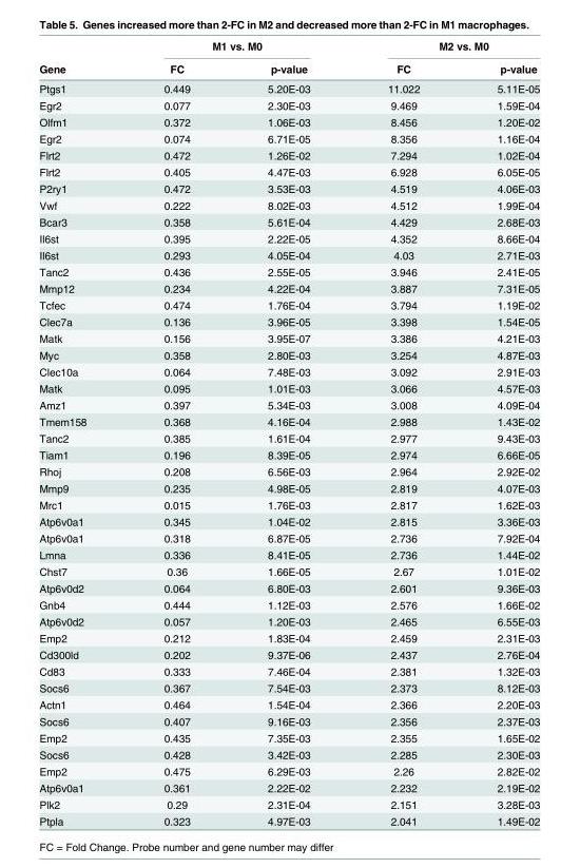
<table><thead><tr><td rowspan="2">Gene</td><td colspan="2">M1 vs. M0</td><td colspan="2">M2 vs. M0</td></tr><tr><td>FC</td><td>p-value</td><td>FC</td><td>p-value</td></tr></thead><tbody><tr><td>Ptgs1</td><td>0.449</td><td>5.20E-03</td><td>11.022</td><td>5.11E-05</td></tr><tr><td>Egr2</td><td>0.077</td><td>2.30E-03</td><td>9.469</td><td>1.59E-04</td></tr><tr><td>Olfm1</td><td>0.372</td><td>1.06E-03</td><td>8.456</td><td>1.20E-02</td></tr><tr><td>Egr2</td><td>0.074</td><td>6.71E-05</td><td>8.356</td><td>1.16E-04</td></tr><tr><td>Flrt2</td><td>0.472</td><td>1.26E-02</td><td>7.294</td><td>1.02E-04</td></tr><tr><td>Flrt2</td><td>0.405</td><td>4.47E-03</td><td>6.928</td><td>6.05E-05</td></tr><tr><td>P2ry1</td><td>0.472</td><td>3.53E-03</td><td>4.519</td><td>4.06E-03</td></tr><tr><td>Vwf</td><td>0.222</td><td>8.02E-03</td><td>4.512</td><td>1.99E-04</td></tr><tr><td>Bcar3</td><td>0.358</td><td>5.61E-04</td><td>4.429</td><td>2.68E-03</td></tr><tr><td>Il6st</td><td>0.395</td><td>2.22E-05</td><td>4.352</td><td>8.66E-04</td></tr><tr><td>Il6st</td><td>0.293</td><td>4.05E-04</td><td>4.03</td><td>2.71E-03</td></tr><tr><td>Tanc2</td><td>0.436</td><td>2.55E-05</td><td>3.946</td><td>2.41E-05</td></tr><tr><td>Mmp12</td><td>0.234</td><td>4.22E-04</td><td>3.887</td><td>7.31E-05</td></tr><tr><td>Tcfec</td><td>0.474</td><td>1.76E-04</td><td>3.794</td><td>1.19E-02</td></tr><tr><td>Clec7a</td><td>0.136</td><td>3.96E-05</td><td>3.398</td><td>1.54E-05</td></tr><tr><td>Matk</td><td>0.156</td><td>3.95E-07</td><td>3.386</td><td>4.21E-03</td></tr><tr><td>Myc</td><td>0.358</td><td>2.80E-03</td><td>3.254</td><td>4.87E-03</td></tr><tr><td>Clec10a</td><td>0.064</td><td>7.48E-03</td><td>3.092</td><td>2.91E-03</td></tr><tr><td>Matk</td><td>0.095</td><td>1.01E-03</td><td>3.066</td><td>4.57E-03</td></tr><tr><td>Amz1</td><td>0.397</td><td>5.34E-03</td><td>3.008</td><td>4.09E-04</td></tr><tr><td>Tmem158</td><td>0.368</td><td>4.16E-04</td><td>2.988</td><td>1.43E-02</td></tr><tr><td>Tanc2</td><td>0.385</td><td>1.61E-04</td><td>2.977</td><td>9.43E-03</td></tr><tr><td>Tiam1</td><td>0.196</td><td>8.39E-05</td><td>2.974</td><td>6.66E-05</td></tr><tr><td>Rhoj</td><td>0.208</td><td>6.56E-03</td><td>2.964</td><td>2.92E-02</td></tr><tr><td>Mmp9</td><td>0.235</td><td>4.98E-05</td><td>2.819</td><td>4.07E-03</td></tr><tr><td>Mrc1</td><td>0.015</td><td>1.76E-03</td><td>2.817</td><td>1.62E-03</td></tr><tr><td>Atp6v0a1</td><td>0.345</td><td>1.04E-02</td><td>2.815</td><td>3.36E-03</td></tr><tr><td>Atp6v0a1</td><td>0.318</td><td>6.87E-05</td><td>2.736</td><td>7.92E-04</td></tr><tr><td>Lmna</td><td>0.336</td><td>8.41E-05</td><td>2.736</td><td>1.44E-02</td></tr><tr><td>Chst7</td><td>0.36</td><td>1.66E-05</td><td>2.67</td><td>1.01E-02</td></tr><tr><td>Atp6v0d2</td><td>0.064</td><td>6.80E-03</td><td>2.601</td><td>9.36E-03</td></tr><tr><td>Gnb4</td><td>0.444</td><td>1.12E-03</td><td>2.576</td><td>1.66E-02</td></tr><tr><td>Atp6v0d2</td><td>0.057</td><td>1.20E-03</td><td>2.465</td><td>6.55E-03</td></tr><tr><td>Emp2</td><td>0.212</td><td>1.83E-04</td><td>2.459</td><td>2.31E-03</td></tr><tr><td>Cd300ld</td><td>0.202</td><td>9.37E-06</td><td>2.437</td><td>2.76E-04</td></tr><tr><td>Cd83</td><td>0.333</td><td>7.46E-04</td><td>2.381</td><td>1.32E-03</td></tr><tr><td>Socs6</td><td>0.367</td><td>7.54E-03</td><td>2.373</td><td>8.12E-03</td></tr><tr><td>Actn1</td><td>0.464</td><td>1.54E-04</td><td>2.366</td><td>2.20E-03</td></tr><tr><td>Socs6</td><td>0.407</td><td>9.16E-03</td><td>2.356</td><td>2.37E-03</td></tr><tr><td>Emp2</td><td>0.435</td><td>7.35E-03</td><td>2.355</td><td>1.65E-02</td></tr><tr><td>Socs6</td><td>0.428</td><td>3.42E-03</td><td>2.285</td><td>2.30E-03</td></tr><tr><td>Emp2</td><td>0.475</td><td>6.29E-03</td><td>2.26</td><td>2.82E-02</td></tr><tr><td>Atp6v0a1</td><td>0.361</td><td>2.22E-02</td><td>2.232</td><td>2.19E-02</td></tr><tr><td>Plk2</td><td>0.29</td><td>2.31E-04</td><td>2.151</td><td>3.28E-03</td></tr><tr><td>Ptpla</td><td>0.323</td><td>4.97E-03</td><td>2.041</td><td>1.49E-02</td></tr></tbody></table>